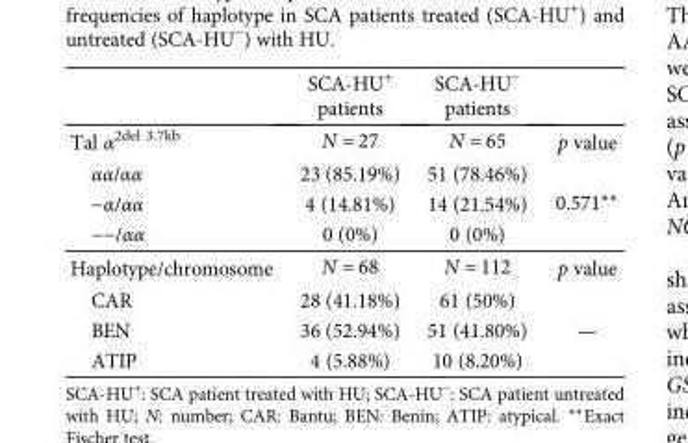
<table><thead><tr><td></td><td>SCA-HU<sup>+</sup> patients</td><td>SCA-HU<sup>−</sup> patients</td><td></td></tr></thead><tbody><tr><td>Tal α<sup>2del 3.7kb</sup></td><td>N = 27</td><td>N = 65</td><td>p value</td></tr><tr><td>αα/αα</td><td>23 (85.19%)</td><td>51 (78.46%)</td><td rowspan="3">0.571∗∗</td></tr><tr><td>−α/αα</td><td>4 (14.81%)</td><td>14 (21.54%)</td></tr><tr><td>−−/αα</td><td>0 (0%)</td><td>0 (0%)</td></tr><tr><td>Haplotype/chromosome</td><td>N = 68</td><td>N = 112</td><td>p value</td></tr><tr><td>CAR</td><td>28 (41.18%)</td><td>61 (50%)</td><td rowspan="3">—</td></tr><tr><td>BEN</td><td>36 (52.94%)</td><td>51 (41.80%)</td></tr><tr><td>ATIP</td><td>4 (5.88%)</td><td>10 (8.20%)</td></tr></tbody></table>